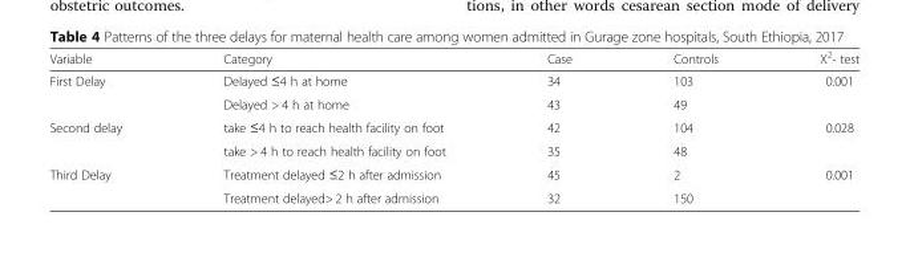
<table><thead><tr><td>Variable</td><td>Category</td><td>Case</td><td>Controls</td><td>X<sup>2</sup>- test</td></tr></thead><tbody><tr><td rowspan="2">First Delay</td><td>Delayed ≤4 h at home</td><td>34</td><td>103</td><td rowspan="2">0.001</td></tr><tr><td>Delayed &gt; 4 h at home</td><td>43</td><td>49</td></tr><tr><td rowspan="2">Second delay</td><td>take ≤4 h to reach health facility on foot</td><td>42</td><td>104</td><td rowspan="2">0.028</td></tr><tr><td>take &gt; 4 h to reach health facility on foot</td><td>35</td><td>48</td></tr><tr><td rowspan="2">Third Delay</td><td>Treatment delayed ≤2 h after admission</td><td>45</td><td>2</td><td rowspan="2">0.001</td></tr><tr><td>Treatment delayed&gt; 2 h after admission</td><td>32</td><td>150</td></tr></tbody></table>